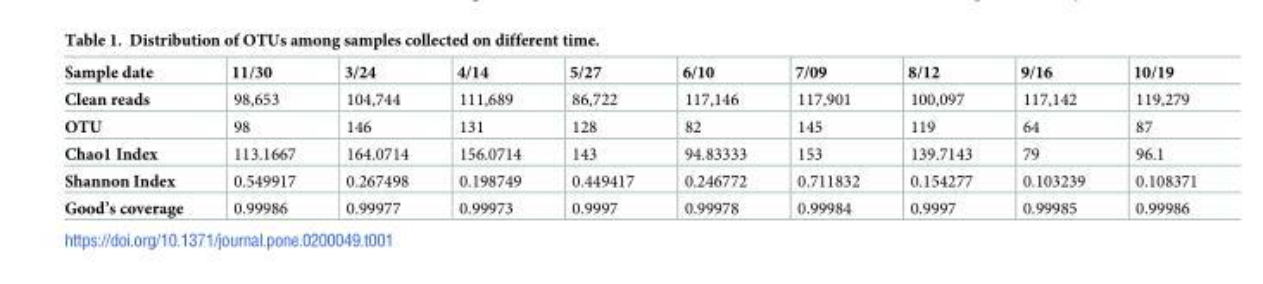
<table><thead><tr><td>Sample date</td><td>11/30</td><td>3/24</td><td>4/14</td><td>5/27</td><td>6/10</td><td>7/09</td><td>8/12</td><td>9/16</td><td>10/19</td></tr></thead><tbody><tr><td>Clean reads</td><td>98,653</td><td>104,744</td><td>111,689</td><td>86,722</td><td>117,146</td><td>117,901</td><td>100,097</td><td>117,142</td><td>119,279</td></tr><tr><td>OTU</td><td>98</td><td>146</td><td>131</td><td>128</td><td>82</td><td>145</td><td>119</td><td>64</td><td>87</td></tr><tr><td>Chao1 Index</td><td>113.1667</td><td>164.0714</td><td>156.0714</td><td>143</td><td>94.83333</td><td>153</td><td>139.7143</td><td>79</td><td>96.1</td></tr><tr><td>Shannon Index</td><td>0.549917</td><td>0.267498</td><td>0.198749</td><td>0.449417</td><td>0.246772</td><td>0.711832</td><td>0.154277</td><td>0.103239</td><td>0.108371</td></tr><tr><td>Good’s coverage</td><td>0.99986</td><td>0.99977</td><td>0.99973</td><td>0.9997</td><td>0.99978</td><td>0.99984</td><td>0.9997</td><td>0.99985</td><td>0.99986</td></tr></tbody></table>